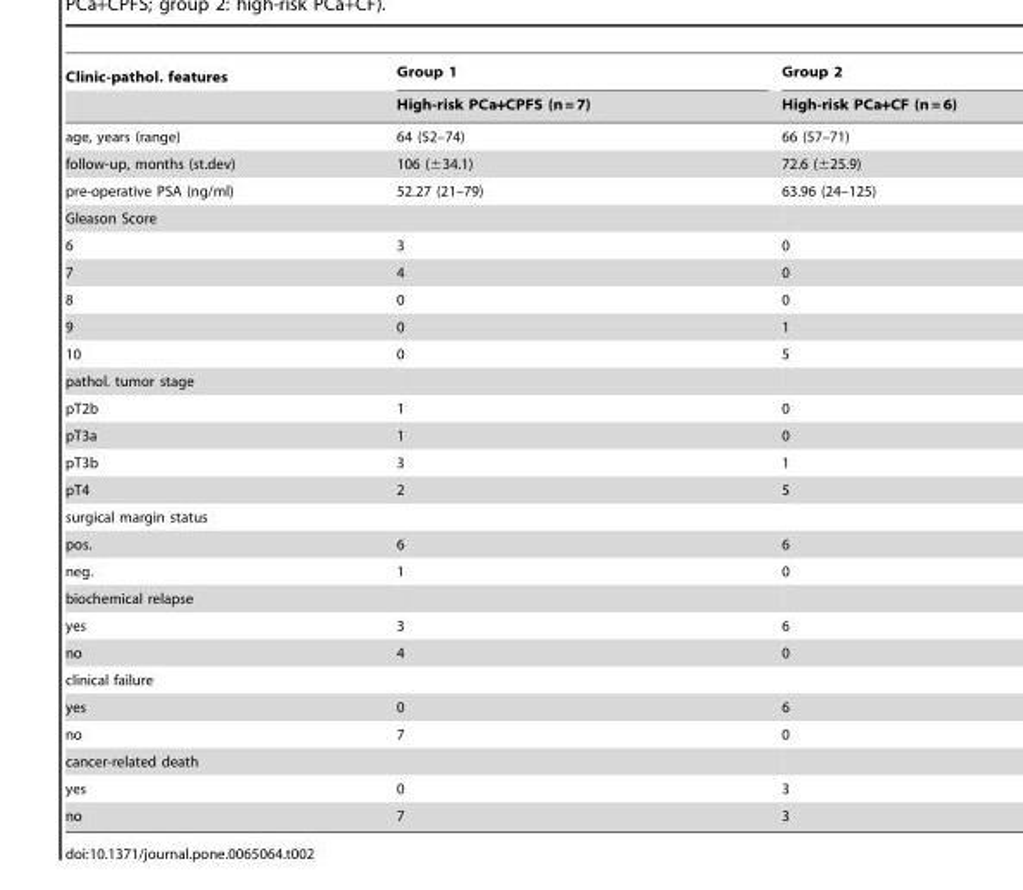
<table><thead><tr><td rowspan="2">Clinic-pathol. features</td><td rowspan="2">Group 1 High-risk PCa+CPFS (n = 7)</td><td rowspan="2">Group 2 High-risk PCa+CF (n = 6)</td></tr><tr></tr></thead><tbody><tr><td>age, years (range)</td><td>64 (52–74)</td><td>66 (57–71)</td></tr><tr><td>follow-up, months (st.dev)</td><td>106 (±34.1)</td><td>72.6 (±25.9)</td></tr><tr><td>pre-operative PSA (ng/ml)</td><td>52.27 (21–79)</td><td>63.96 (24–125)</td></tr><tr><td colspan="3">Gleason Score</td></tr><tr><td>6</td><td>3</td><td>0</td></tr><tr><td>7</td><td>4</td><td>0</td></tr><tr><td>8</td><td>0</td><td>0</td></tr><tr><td>9</td><td>0</td><td>1</td></tr><tr><td>10</td><td>0</td><td>5</td></tr><tr><td colspan="3">pathol. tumor stage</td></tr><tr><td>pT2b</td><td>1</td><td>0</td></tr><tr><td>pT3a</td><td>1</td><td>0</td></tr><tr><td>pT3b</td><td>3</td><td>1</td></tr><tr><td>pT4</td><td>2</td><td>5</td></tr><tr><td colspan="3">surgical margin status</td></tr><tr><td>pos.</td><td>6</td><td>6</td></tr><tr><td>neg.</td><td>1</td><td>0</td></tr><tr><td colspan="3">biochemical relapse</td></tr><tr><td>yes</td><td>3</td><td>6</td></tr><tr><td>no</td><td>4</td><td>0</td></tr><tr><td colspan="3">clinical failure</td></tr><tr><td>yes</td><td>0</td><td>6</td></tr><tr><td>no</td><td>7</td><td>0</td></tr><tr><td colspan="3">cancer-related death</td></tr><tr><td>yes</td><td>0</td><td>3</td></tr><tr><td>no</td><td>7</td><td>3</td></tr></tbody></table>